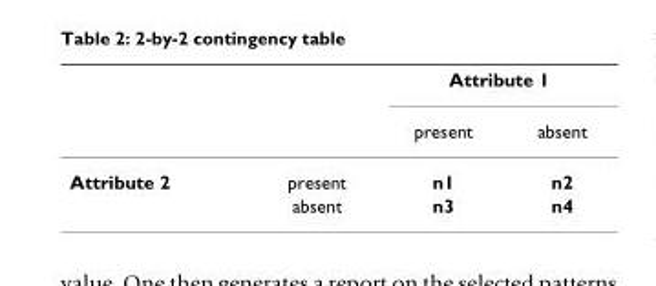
<table><thead><tr><td rowspan="2"></td><td rowspan="2"></td><td colspan="2">Attribute 1</td></tr><tr><td>present</td><td>absent</td></tr></thead><tbody><tr><td rowspan="2">Attribute 2</td><td>present</td><td>n1</td><td>n2</td></tr><tr><td>absent</td><td>n3</td><td>n4</td></tr></tbody></table>